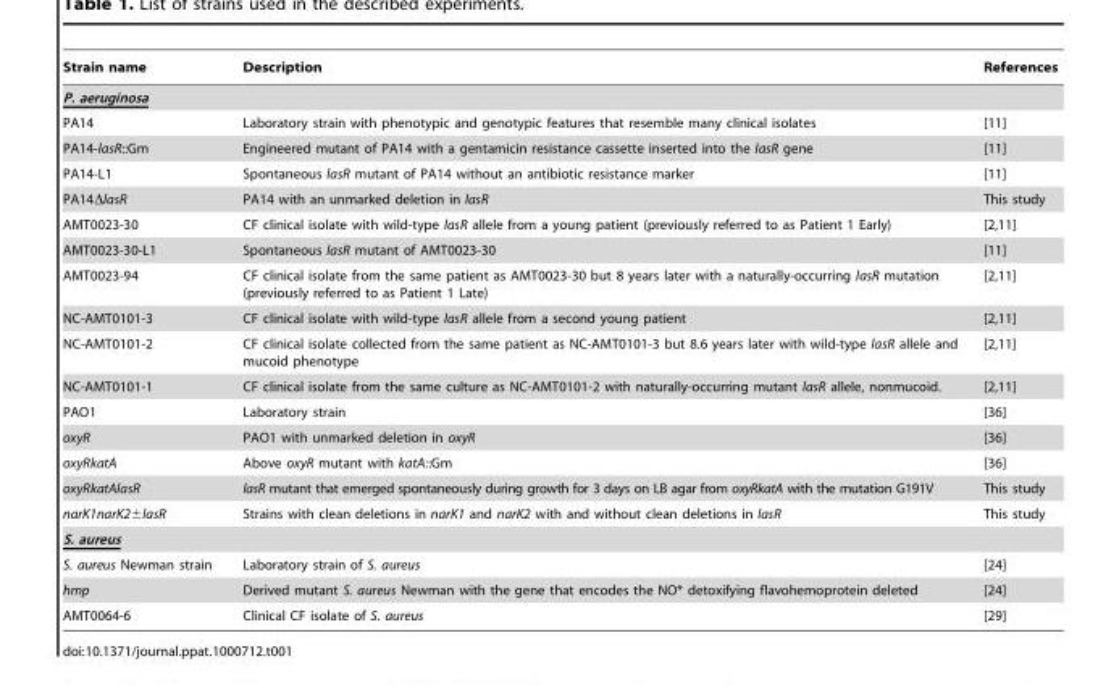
<table><thead><tr><td>Strain name</td><td>Description</td><td>References</td></tr></thead><tbody><tr><td colspan="3">P. aeruginosa</td></tr><tr><td>PA14</td><td>Laboratory strain with phenotypic and genotypic features that resemble many clinical isolates</td><td>[11]</td></tr><tr><td>PA14-lasR::Gm</td><td>Engineered mutant of PA14 with a gentamicin resistance cassette inserted into the lasR gene</td><td>[11]</td></tr><tr><td>PA14-L1</td><td>Spontaneous lasR mutant of PA14 without an antibiotic resistance marker</td><td>[11]</td></tr><tr><td>PA14ΔlasR</td><td>PA14 with an unmarked deletion in lasR</td><td>This study</td></tr><tr><td>AMT0023-30</td><td>CF clinical isolate with wild-type lasR allele from a young patient (previously referred to as Patient 1 Early)</td><td>[2,11]</td></tr><tr><td>AMT0023-30-L1</td><td>Spontaneous lasR mutant of AMT0023-30</td><td>[11]</td></tr><tr><td>AMT0023-94</td><td>CF clinical isolate from the same patient as AMT0023-30 but 8 years later with a naturally-occurring lasR mutation (previously referred to as Patient 1 Late)</td><td>[2,11]</td></tr><tr><td>NC-AMT0101-3</td><td>CF clinical isolate with wild-type lasR allele from a second young patient</td><td>[2,11]</td></tr><tr><td>NC-AMT0101-2</td><td>CF clinical isolate collected from the same patient as NC-AMT0101-3 but 8.6 years later with wild-type lasR allele and mucoid phenotype</td><td>[2,11]</td></tr><tr><td>NC-AMT0101-1</td><td>CF clinical isolate from the same culture as NC-AMT0101-2 with naturally-occurring mutant lasR allele, nonmucoid.</td><td>[2,11]</td></tr><tr><td>PAO1</td><td>Laboratory strain</td><td>[36]</td></tr><tr><td>oxyR</td><td>PAO1 with unmarked deletion in oxyR</td><td>[36]</td></tr><tr><td>oxyRkatA</td><td>Above oxyR mutant with katA::Gm</td><td>[36]</td></tr><tr><td>oxyRkatAlasR</td><td>lasR mutant that emerged spontaneously during growth for 3 days on LB agar from oxyRkatA with the mutation G191V</td><td>This study</td></tr><tr><td>narK1narK2±lasR</td><td>Strains with clean deletions in narK1 and narK2 with and without clean deletions in lasR</td><td>This study</td></tr><tr><td colspan="3">S. aureus</td></tr><tr><td>S. aureus Newman strain</td><td>Laboratory strain of S. aureus</td><td>[24]</td></tr><tr><td>hmp</td><td>Derived mutant S. aureus Newman with the gene that encodes the NO* detoxifying flavohemoprotein deleted</td><td>[24]</td></tr><tr><td>AMT0064-6</td><td>Clinical CF isolate of S. aureus</td><td>[29]</td></tr></tbody></table>